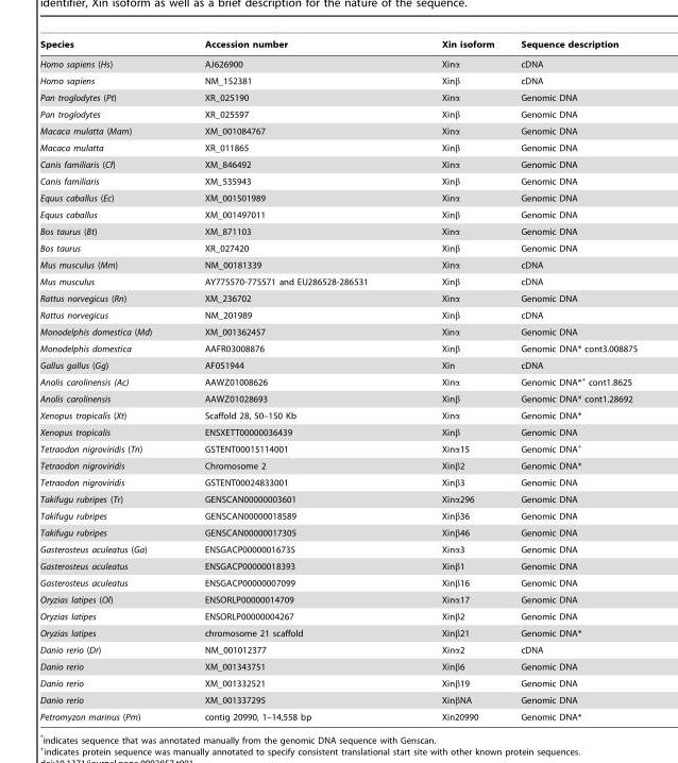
<table><thead><tr><td>Species</td><td>Accession number</td><td>Xin isoform</td><td>Sequence description</td></tr></thead><tbody><tr><td>Homo sapiens (Hs)</td><td>AJ626900</td><td>Xinα</td><td>cDNA</td></tr><tr><td>Homo sapiens</td><td>NM_152381</td><td>Xinβ</td><td>cDNA</td></tr><tr><td>Pan troglodytes (Pt)</td><td>XR_025190</td><td>Xinα</td><td>Genomic DNA</td></tr><tr><td>Pan troglodytes</td><td>XR_025597</td><td>Xinβ</td><td>Genomic DNA</td></tr><tr><td>Macaca mulatta (Mam)</td><td>XM_001084767</td><td>Xinα</td><td>Genomic DNA</td></tr><tr><td>Macaca mulatta</td><td>XR_011865</td><td>Xinβ</td><td>Genomic DNA</td></tr><tr><td>Canis familiaris (Cf)</td><td>XM_846492</td><td>Xinα</td><td>Genomic DNA</td></tr><tr><td>Canis familiaris</td><td>XM_535943</td><td>Xinβ</td><td>Genomic DNA</td></tr><tr><td>Equus caballus (Ec)</td><td>XM_001501989</td><td>Xinα</td><td>Genomic DNA</td></tr><tr><td>Equus caballus</td><td>XM_001497011</td><td>Xinβ</td><td>Genomic DNA</td></tr><tr><td>Bos taurus (Bt)</td><td>XM_871103</td><td>Xinα</td><td>Genomic DNA</td></tr><tr><td>Bos taurus</td><td>XR_027420</td><td>Xinβ</td><td>Genomic DNA</td></tr><tr><td>Mus musculus (Mm)</td><td>NM_00181339</td><td>Xinα</td><td>cDNA</td></tr><tr><td>Mus musculus</td><td>AY775570-775571 and EU286528-286531</td><td>Xinβ</td><td>cDNA</td></tr><tr><td>Rattus norvegicus (Rn)</td><td>XM_236702</td><td>Xinα</td><td>Genomic DNA</td></tr><tr><td>Rattus norvegicus</td><td>NM_201989</td><td>Xinβ</td><td>cDNA</td></tr><tr><td>Monodelphis domestica (Md)</td><td>XM_001362457</td><td>Xinα</td><td>Genomic DNA</td></tr><tr><td>Monodelphis domestica</td><td>AAFR03008876</td><td>Xinβ</td><td>Genomic DNA* cont3.008875</td></tr><tr><td>Gallus gallus (Gg)</td><td>AF051944</td><td>Xin</td><td>cDNA</td></tr><tr><td>Anolis carolinensis (Ac)</td><td>AAWZ01008626</td><td>Xinα</td><td>Genomic DNA*+ cont1.8625</td></tr><tr><td>Anolis carolinensis</td><td>AAWZ01028693</td><td>Xinβ</td><td>Genomic DNA* cont1.28692</td></tr><tr><td>Xenopus tropicalis (Xt)</td><td>Scaffold 28, 50–150 Kb</td><td>Xinα</td><td>Genomic DNA*</td></tr><tr><td>Xenopus tropicalis</td><td>ENSXETT00000036439</td><td>Xinβ</td><td>Genomic DNA</td></tr><tr><td>Tetraodon nigroviridis (Tn)</td><td>GSTENT00015114001</td><td>Xinα15</td><td>Genomic DNA+</td></tr><tr><td>Tetraodon nigroviridis</td><td>Chromosome 2</td><td>Xinβ2</td><td>Genomic DNA*</td></tr><tr><td>Tetraodon nigroviridis</td><td>GSTENT00024833001</td><td>Xinβ3</td><td>Genomic DNA</td></tr><tr><td>Takifugu rubripes (Tr)</td><td>GENSCAN00000003601</td><td>Xinα296</td><td>Genomic DNA</td></tr><tr><td>Takifugu rubripes</td><td>GENSCAN00000018589</td><td>Xinβ36</td><td>Genomic DNA</td></tr><tr><td>Takifugu rubripes</td><td>GENSCAN00000017305</td><td>Xinβ46</td><td>Genomic DNA</td></tr><tr><td>Gasterosteus aculeatus (Ga)</td><td>ENSGACP00000016735</td><td>Xinα3</td><td>Genomic DNA</td></tr><tr><td>Gasterosteus aculeatus</td><td>ENSGACP00000018393</td><td>Xinβ1</td><td>Genomic DNA</td></tr><tr><td>Gasterosteus aculeatus</td><td>ENSGACP00000007099</td><td>Xinβ16</td><td>Genomic DNA</td></tr><tr><td>Oryzias latipes (Ol)</td><td>ENSORLP00000014709</td><td>Xinα17</td><td>Genomic DNA</td></tr><tr><td>Oryzias latipes</td><td>ENSORLP00000004267</td><td>Xinβ2</td><td>Genomic DNA</td></tr><tr><td>Oryzias latipes</td><td>chromosome 21 scaffold</td><td>Xinβ21</td><td>Genomic DNA*</td></tr><tr><td>Danio rerio (Dr)</td><td>NM_001012377</td><td>Xinα2</td><td>cDNA</td></tr><tr><td>Danio rerio</td><td>XM_001343751</td><td>Xinβ6</td><td>Genomic DNA</td></tr><tr><td>Danio rerio</td><td>XM_001332521</td><td>Xinβ19</td><td>Genomic DNA</td></tr><tr><td>Danio rerio</td><td>XM_001337295</td><td>XinβNA</td><td>Genomic DNA</td></tr><tr><td>Petromyzon marinus (Pm)</td><td>contig 20990, 1–14,558 bp</td><td>Xin20990</td><td>Genomic DNA*</td></tr></tbody></table>